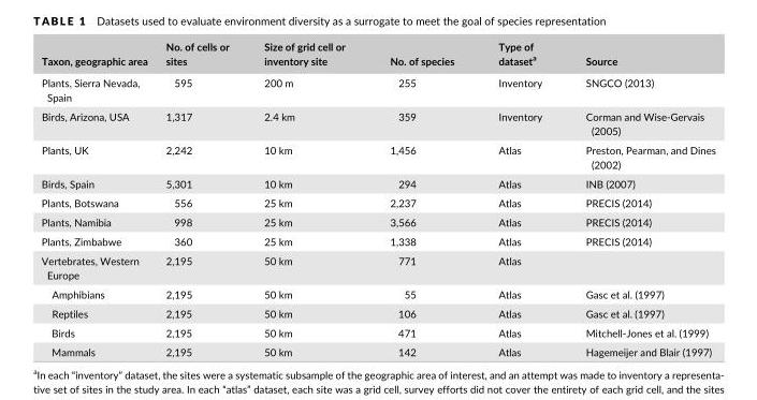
<table><thead><tr><td>Taxon, geographic area</td><td>No. of cells or sites</td><td>Size of grid cell or inventory site</td><td>No. of species</td><td>Type of dataset<sup>a</sup></td><td>Source</td></tr></thead><tbody><tr><td>Plants, Sierra Nevada, Spain</td><td>595</td><td>200 m</td><td>255</td><td>Inventory</td><td>SNGCO (2013)</td></tr><tr><td>Birds, Arizona, USA</td><td>1,317</td><td>2.4 km</td><td>359</td><td>Inventory</td><td>Corman and Wise- Gervais (2005)</td></tr><tr><td>Plants, UK</td><td>2,242</td><td>10 km</td><td>1,456</td><td>Atlas</td><td>Preston, Pearman, and Dines (2002)</td></tr><tr><td>Birds, Spain</td><td>5,301</td><td>10 km</td><td>294</td><td>Atlas</td><td>INB (2007)</td></tr><tr><td>Plants, Botswana</td><td>556</td><td>25 km</td><td>2,237</td><td>Atlas</td><td>PRECIS (2014)</td></tr><tr><td>Plants, Namibia</td><td>998</td><td>25 km</td><td>3,566</td><td>Atlas</td><td>PRECIS (2014)</td></tr><tr><td>Plants, Zimbabwe</td><td>360</td><td>25 km</td><td>1,338</td><td>Atlas</td><td>PRECIS (2014)</td></tr><tr><td>Vertebrates, Western Europe</td><td>2,195</td><td>50 km</td><td>771</td><td>Atlas</td><td></td></tr><tr><td>Amphibians</td><td>2,195</td><td>50 km</td><td>55</td><td>Atlas</td><td>Gasc et al. (1997)</td></tr><tr><td>Reptiles</td><td>2,195</td><td>50 km</td><td>106</td><td>Atlas</td><td>Gasc et al. (1997)</td></tr><tr><td>Birds</td><td>2,195</td><td>50 km</td><td>471</td><td>Atlas</td><td>Mitchell- Jones et al. (1999)</td></tr><tr><td>Mammals</td><td>2,195</td><td>50 km</td><td>142</td><td>Atlas</td><td>Hagemeijer and Blair (1997)</td></tr></tbody></table>